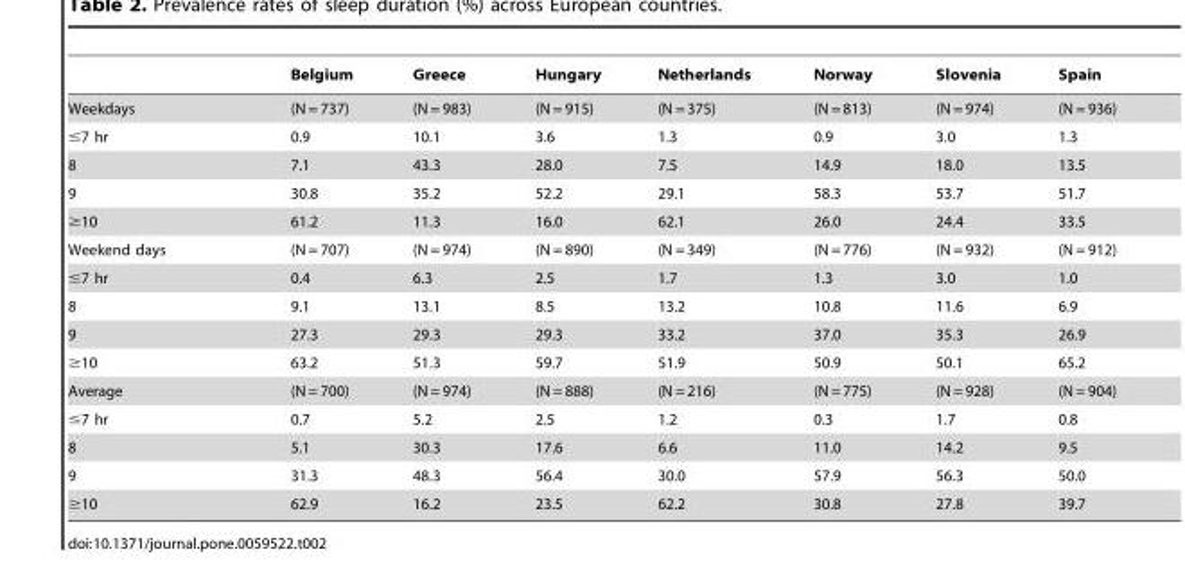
<table><thead><tr><td></td><td>Belgium</td><td>Greece</td><td>Hungary</td><td>Netherlands</td><td>Norway</td><td>Slovenia</td><td>Spain</td></tr></thead><tbody><tr><td>Weekdays</td><td>(N = 737)</td><td>(N = 983)</td><td>(N = 915)</td><td>(N = 375)</td><td>(N = 813)</td><td>(N = 974)</td><td>(N = 936)</td></tr><tr><td>≤7 hr</td><td>0.9</td><td>10.1</td><td>3.6</td><td>1.3</td><td>0.9</td><td>3.0</td><td>1.3</td></tr><tr><td>8</td><td>7.1</td><td>43.3</td><td>28.0</td><td>7.5</td><td>14.9</td><td>18.0</td><td>13.5</td></tr><tr><td>9</td><td>30.8</td><td>35.2</td><td>52.2</td><td>29.1</td><td>58.3</td><td>53.7</td><td>51.7</td></tr><tr><td>≥10</td><td>61.2</td><td>11.3</td><td>16.0</td><td>62.1</td><td>26.0</td><td>24.4</td><td>33.5</td></tr><tr><td>Weekend days</td><td>(N = 707)</td><td>(N = 974)</td><td>(N = 890)</td><td>(N = 349)</td><td>(N = 776)</td><td>(N = 932)</td><td>(N = 912)</td></tr><tr><td>≤7 hr</td><td>0.4</td><td>6.3</td><td>2.5</td><td>1.7</td><td>1.3</td><td>3.0</td><td>1.0</td></tr><tr><td>8</td><td>9.1</td><td>13.1</td><td>8.5</td><td>13.2</td><td>10.8</td><td>11.6</td><td>6.9</td></tr><tr><td>9</td><td>27.3</td><td>29.3</td><td>29.3</td><td>33.2</td><td>37.0</td><td>35.3</td><td>26.9</td></tr><tr><td>≥10</td><td>63.2</td><td>51.3</td><td>59.7</td><td>51.9</td><td>50.9</td><td>50.1</td><td>65.2</td></tr><tr><td>Average</td><td>(N = 700)</td><td>(N = 974)</td><td>(N = 888)</td><td>(N = 216)</td><td>(N = 775)</td><td>(N = 928)</td><td>(N = 904)</td></tr><tr><td>≤7 hr</td><td>0.7</td><td>5.2</td><td>2.5</td><td>1.2</td><td>0.3</td><td>1.7</td><td>0.8</td></tr><tr><td>8</td><td>5.1</td><td>30.3</td><td>17.6</td><td>6.6</td><td>11.0</td><td>14.2</td><td>9.5</td></tr><tr><td>9</td><td>31.3</td><td>48.3</td><td>56.4</td><td>30.0</td><td>57.9</td><td>56.3</td><td>50.0</td></tr><tr><td>≥10</td><td>62.9</td><td>16.2</td><td>23.5</td><td>62.2</td><td>30.8</td><td>27.8</td><td>39.7</td></tr></tbody></table>